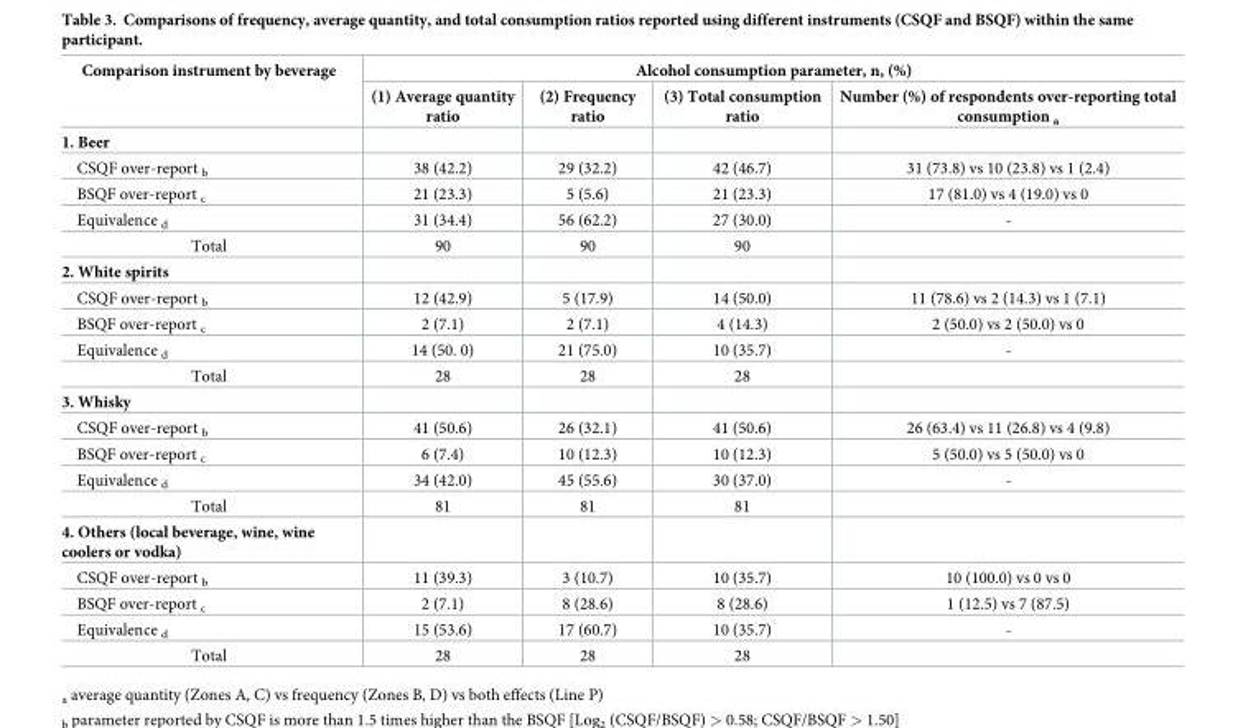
<table><thead><tr><td rowspan="2">Comparison instrument by beverage</td><td colspan="4">Alcohol consumption parameter, n, (%)</td></tr><tr><td>(1) Average quantity ratio</td><td>(2) Frequency ratio</td><td>(3) Total consumption ratio</td><td>Number (%) of respondents over-reporting total consumption <sub>a</sub></td></tr></thead><tbody><tr><td colspan="5">1. Beer</td></tr><tr><td>CSQF over-report <sub>b</sub></td><td>38 (42.2)</td><td>29 (32.2)</td><td>42 (46.7)</td><td>31 (73.8) vs 10 (23.8) vs 1 (2.4)</td></tr><tr><td>BSQF over-report <sub>c</sub></td><td>21 (23.3)</td><td>5 (5.6)</td><td>21 (23.3)</td><td>17 (81.0) vs 4 (19.0) vs 0</td></tr><tr><td>Equivalence <sub>d</sub></td><td>31 (34.4)</td><td>56 (62.2)</td><td>27 (30.0)</td><td>-</td></tr><tr><td>Total</td><td>90</td><td>90</td><td>90</td><td></td></tr><tr><td colspan="5">2. White spirits</td></tr><tr><td>CSQF over-report <sub>b</sub></td><td>12 (42.9)</td><td>5 (17.9)</td><td>14 (50.0)</td><td>11 (78.6) vs 2 (14.3) vs 1 (7.1)</td></tr><tr><td>BSQF over-report <sub>c</sub></td><td>2 (7.1)</td><td>2 (7.1)</td><td>4 (14.3)</td><td>2 (50.0) vs 2 (50.0) vs 0</td></tr><tr><td>Equivalence <sub>d</sub></td><td>14 (50. 0)</td><td>21 (75.0)</td><td>10 (35.7)</td><td>-</td></tr><tr><td>Total</td><td>28</td><td>28</td><td>28</td><td></td></tr><tr><td colspan="5">3. Whisky</td></tr><tr><td>CSQF over-report <sub>b</sub></td><td>41 (50.6)</td><td>26 (32.1)</td><td>41 (50.6)</td><td>26 (63.4) vs 11 (26.8) vs 4 (9.8)</td></tr><tr><td>BSQF over-report <sub>c</sub></td><td>6 (7.4)</td><td>10 (12.3)</td><td>10 (12.3)</td><td>5 (50.0) vs 5 (50.0) vs 0</td></tr><tr><td>Equivalence <sub>d</sub></td><td>34 (42.0)</td><td>45 (55.6)</td><td>30 (37.0)</td><td>-</td></tr><tr><td>Total</td><td>81</td><td>81</td><td>81</td><td></td></tr><tr><td colspan="5">4. Others (local beverage, wine, wine coolers or vodka)</td></tr><tr><td>CSQF over-report <sub>b</sub></td><td>11 (39.3)</td><td>3 (10.7)</td><td>10 (35.7)</td><td>10 (100.0) vs 0 vs 0</td></tr><tr><td>BSQF over-report <sub>c</sub></td><td>2 (7.1)</td><td>8 (28.6)</td><td>8 (28.6)</td><td>1 (12.5) vs 7 (87.5)</td></tr><tr><td>Equivalence <sub>d</sub></td><td>15 (53.6)</td><td>17 (60.7)</td><td>10 (35.7)</td><td>-</td></tr><tr><td>Total</td><td>28</td><td>28</td><td>28</td><td></td></tr></tbody></table>